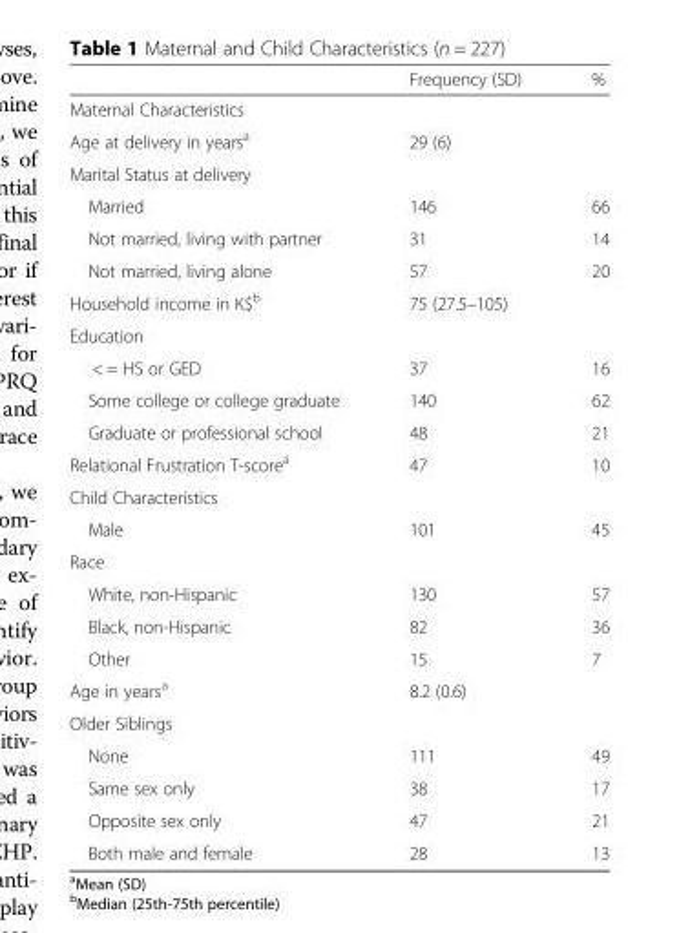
<table><thead><tr><td></td><td>Frequency (SD)</td><td>%</td></tr></thead><tbody><tr><td colspan="3">Maternal Characteristics</td></tr><tr><td>Age at delivery in years<sup>a</sup></td><td>29 (6)</td><td></td></tr><tr><td colspan="3">Marital Status at delivery</td></tr><tr><td>Married</td><td>146</td><td>66</td></tr><tr><td>Not married, living with partner</td><td>31</td><td>14</td></tr><tr><td>Not married, living alone</td><td>57</td><td>20</td></tr><tr><td>Household income in K$<sup>b</sup></td><td>75 (27.5–105)</td><td></td></tr><tr><td colspan="3">Education</td></tr><tr><td>&lt; = HS or GED</td><td>37</td><td>16</td></tr><tr><td>Some college or college graduate</td><td>140</td><td>62</td></tr><tr><td>Graduate or professional school</td><td>48</td><td>21</td></tr><tr><td>Relational Frustration T-score<sup>a</sup></td><td>47</td><td>10</td></tr><tr><td colspan="3">Child Characteristics</td></tr><tr><td>Male</td><td>101</td><td>45</td></tr><tr><td colspan="3">Race</td></tr><tr><td>White, non-Hispanic</td><td>130</td><td>57</td></tr><tr><td>Black, non-Hispanic</td><td>82</td><td>36</td></tr><tr><td>Other</td><td>15</td><td>7</td></tr><tr><td>Age in years<sup>a</sup></td><td>8.2 (0.6)</td><td></td></tr><tr><td colspan="3">Older Siblings</td></tr><tr><td>None</td><td>111</td><td>49</td></tr><tr><td>Same sex only</td><td>38</td><td>17</td></tr><tr><td>Opposite sex only</td><td>47</td><td>21</td></tr><tr><td>Both male and female</td><td>28</td><td>13</td></tr></tbody></table>